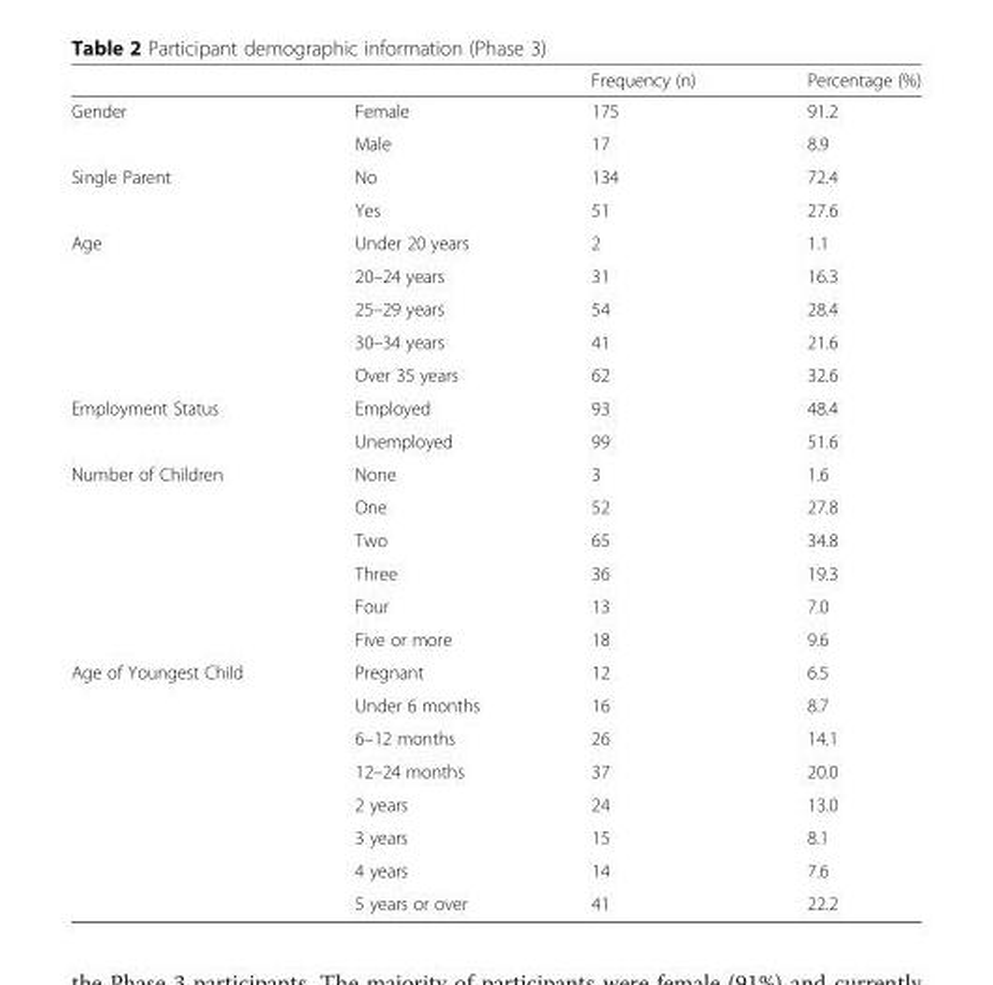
<table><thead><tr><td></td><td></td><td>Frequency (n)</td><td>Percentage (%)</td></tr></thead><tbody><tr><td rowspan="2">Gender</td><td>Female</td><td>175</td><td>91.2</td></tr><tr><td>Male</td><td>17</td><td>8.9</td></tr><tr><td rowspan="2">Single Parent</td><td>No</td><td>134</td><td>72.4</td></tr><tr><td>Yes</td><td>51</td><td>27.6</td></tr><tr><td rowspan="5">Age</td><td>Under 20 years</td><td>2</td><td>1.1</td></tr><tr><td>20–24 years</td><td>31</td><td>16.3</td></tr><tr><td>25–29 years</td><td>54</td><td>28.4</td></tr><tr><td>30–34 years</td><td>41</td><td>21.6</td></tr><tr><td>Over 35 years</td><td>62</td><td>32.6</td></tr><tr><td rowspan="2">Employment Status</td><td>Employed</td><td>93</td><td>48.4</td></tr><tr><td>Unemployed</td><td>99</td><td>51.6</td></tr><tr><td rowspan="6">Number of Children</td><td>None</td><td>3</td><td>1.6</td></tr><tr><td>One</td><td>52</td><td>27.8</td></tr><tr><td>Two</td><td>65</td><td>34.8</td></tr><tr><td>Three</td><td>36</td><td>19.3</td></tr><tr><td>Four</td><td>13</td><td>7.0</td></tr><tr><td>Five or more</td><td>18</td><td>9.6</td></tr><tr><td rowspan="8">Age of Youngest Child</td><td>Pregnant</td><td>12</td><td>6.5</td></tr><tr><td>Under 6 months</td><td>16</td><td>8.7</td></tr><tr><td>6–12 months</td><td>26</td><td>14.1</td></tr><tr><td>12–24 months</td><td>37</td><td>20.0</td></tr><tr><td>2 years</td><td>24</td><td>13.0</td></tr><tr><td>3 years</td><td>15</td><td>8.1</td></tr><tr><td>4 years</td><td>14</td><td>7.6</td></tr><tr><td>5 years or over</td><td>41</td><td>22.2</td></tr></tbody></table>